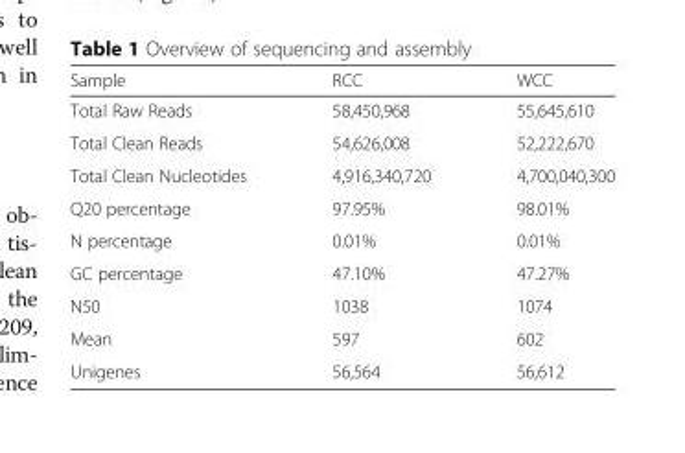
<table><thead><tr><td>Sample</td><td>RCC</td><td>WCC</td></tr></thead><tbody><tr><td>Total Raw Reads</td><td>58,450,968</td><td>55,645,610</td></tr><tr><td>Total Clean Reads</td><td>54,626,008</td><td>52,222,670</td></tr><tr><td>Total Clean Nucleotides</td><td>4,916,340,720</td><td>4,700,040,300</td></tr><tr><td>Q20 percentage</td><td>97.95%</td><td>98.01%</td></tr><tr><td>N percentage</td><td>0.01%</td><td>0.01%</td></tr><tr><td>GC percentage</td><td>47.10%</td><td>47.27%</td></tr><tr><td>N50</td><td>1038</td><td>1074</td></tr><tr><td>Mean</td><td>597</td><td>602</td></tr><tr><td>Unigenes</td><td>56,564</td><td>56,612</td></tr></tbody></table>